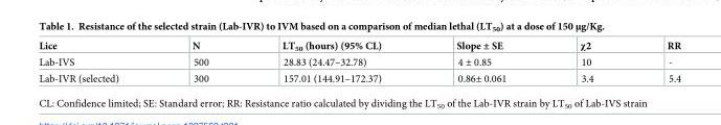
<table><thead><tr><td>Lice</td><td>N</td><td>LT<sub>50</sub> (hours) (95% CL)</td><td>Slope ± SE</td><td>χ2</td><td>RR</td></tr></thead><tbody><tr><td>Lab-IVS</td><td>500</td><td>28.83 (24.47–32.78)</td><td>4 ± 0.85</td><td>10</td><td>-</td></tr><tr><td>Lab-IVR (selected)</td><td>300</td><td>157.01 (144.91–172.37)</td><td>0.86± 0.061</td><td>3.4</td><td>5.4</td></tr></tbody></table>